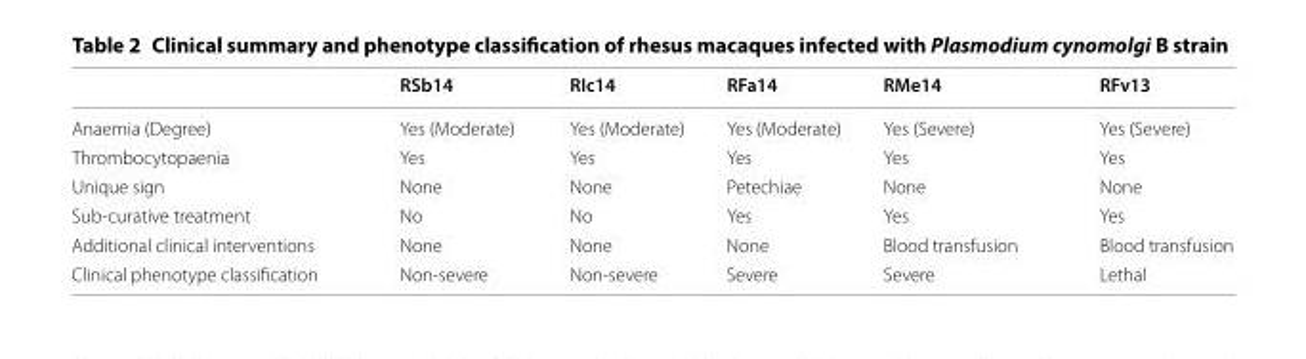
<table><thead><tr><td></td><td>RSb14</td><td>RIc14</td><td>RFa14</td><td>RMe14</td><td>RFv13</td></tr></thead><tbody><tr><td>Anaemia (Degree)</td><td>Yes (Moderate)</td><td>Yes (Moderate)</td><td>Yes (Moderate)</td><td>Yes (Severe)</td><td>Yes (Severe)</td></tr><tr><td>Thrombocytopaenia</td><td>Yes</td><td>Yes</td><td>Yes</td><td>Yes</td><td>Yes</td></tr><tr><td>Unique sign</td><td>None</td><td>None</td><td>Petechiae</td><td>None</td><td>None</td></tr><tr><td>Sub‑curative treatment</td><td>No</td><td>No</td><td>Yes</td><td>Yes</td><td>Yes</td></tr><tr><td>Additional clinical interventions</td><td>None</td><td>None</td><td>None</td><td>Blood transfusion</td><td>Blood transfusion</td></tr><tr><td>Clinical phenotype classification</td><td>Non‑severe</td><td>Non‑severe</td><td>Severe</td><td>Severe</td><td>Lethal</td></tr></tbody></table>